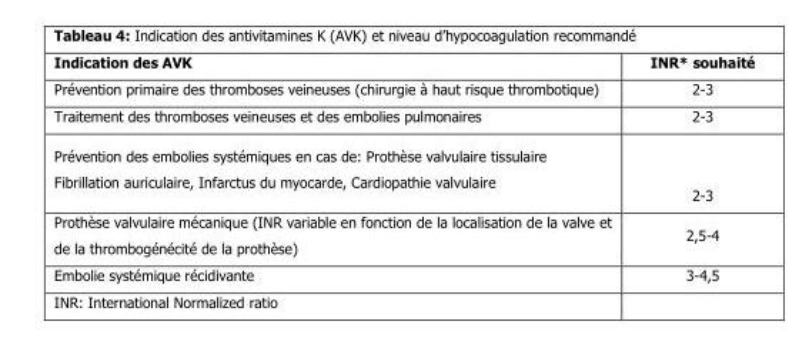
<table><thead><tr><td>Indication des AVK</td><td>INR* souhaité</td></tr></thead><tbody><tr><td>Prévention primaire des thromboses veineuses (chirurgie à haut risque thrombotique)</td><td>2-3</td></tr><tr><td>Traitement des thromboses veineuses et des embolies pulmonaires</td><td>2-3</td></tr><tr><td>Prévention des embolies systémiques en cas de: Prothèse valvulaire tissulaire Fibrillation auriculaire, Infarctus du myocarde, Cardiopathie valvulaire</td><td>2-3</td></tr><tr><td>Prothèse valvulaire mécanique (INR variable en fonction de la localisation de la valve et de la thrombogénécité de la prothèse)</td><td>2,5-4</td></tr><tr><td>Embolie systémique récidivante</td><td>3-4,5</td></tr></tbody></table>